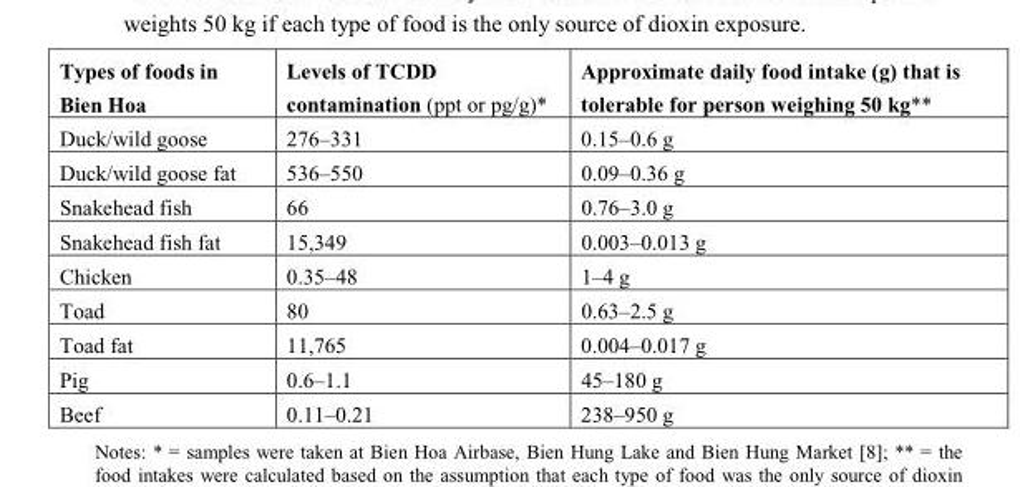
<table><thead><tr><td>Types of foods in Bien Hoa</td><td>Levels of TCDD contamination (ppt or pg/g)*</td><td>Approximate daily food intake (g) that is tolerable for person weighing 50 kg**</td></tr></thead><tbody><tr><td>Duck/wild goose</td><td>276–331</td><td>0.15–0.6 g</td></tr><tr><td>Duck/wild goose fat</td><td>536–550</td><td>0.09–0.36 g</td></tr><tr><td>Snakehead fish</td><td>66</td><td>0.76–3.0 g</td></tr><tr><td>Snakehead fish fat</td><td>15,349</td><td>0.003–0.013 g</td></tr><tr><td>Chicken</td><td>0.35–48</td><td>1–4 g</td></tr><tr><td>Toad</td><td>80</td><td>0.63–2.5 g</td></tr><tr><td>Toad fat</td><td>11,765</td><td>0.004–0.017 g</td></tr><tr><td>Pig</td><td>0.6–1.1</td><td>45–180 g</td></tr><tr><td>Beef</td><td>0.11–0.21</td><td>238–950 g</td></tr></tbody></table>